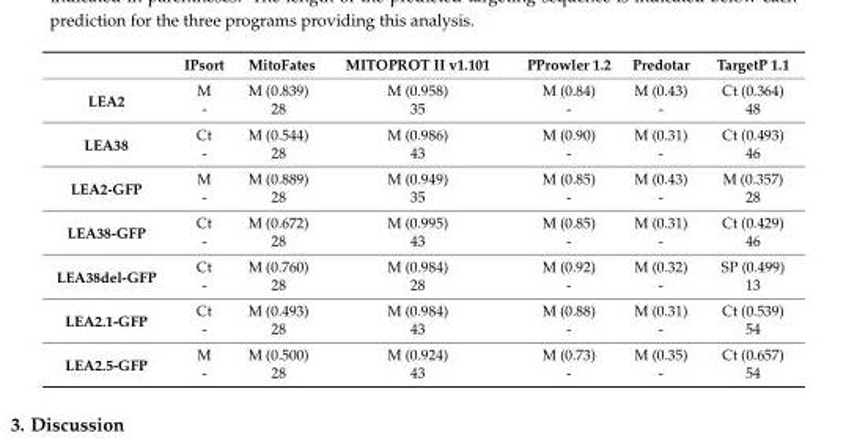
<table><thead><tr><td></td><td>IPsort</td><td>MitoFates</td><td>MITOPROT II v1.101</td><td>PProwler 1.2</td><td>Predotar</td><td>TargetP 1.1</td></tr></thead><tbody><tr><td rowspan="2">LEA2</td><td>M</td><td>M (0.839)</td><td>M (0.958)</td><td>M (0.84)</td><td>M (0.43)</td><td>Ct (0.364)</td></tr><tr><td>-</td><td>28</td><td>35</td><td>-</td><td>-</td><td>48</td></tr><tr><td rowspan="2">LEA38</td><td>Ct</td><td>M (0.544)</td><td>M (0.986)</td><td>M (0.90)</td><td>M (0.31)</td><td>Ct (0.493)</td></tr><tr><td>-</td><td>28</td><td>43</td><td>-</td><td>-</td><td>46</td></tr><tr><td rowspan="2">LEA2-GFP</td><td>M</td><td>M (0.889)</td><td>M (0.949)</td><td>M (0.85)</td><td>M (0.43)</td><td>M (0.357)</td></tr><tr><td>-</td><td>28</td><td>35</td><td>-</td><td>-</td><td>28</td></tr><tr><td rowspan="2">LEA38-GFP</td><td>Ct</td><td>M (0.672)</td><td>M (0.995)</td><td>M (0.85)</td><td>M (0.31)</td><td>Ct (0.429)</td></tr><tr><td>-</td><td>28</td><td>43</td><td>-</td><td>-</td><td>46</td></tr><tr><td rowspan="2">LEA38del-GFP</td><td>Ct</td><td>M (0.760)</td><td>M (0.984)</td><td>M (0.92)</td><td>M (0.32)</td><td>SP (0.499)</td></tr><tr><td>-</td><td>28</td><td>28</td><td>-</td><td>-</td><td>13</td></tr><tr><td rowspan="2">LEA2.1-GFP</td><td>Ct</td><td>M (0.493)</td><td>M (0.984)</td><td>M (0.88)</td><td>M (0.31)</td><td>Ct (0.539)</td></tr><tr><td>-</td><td>28</td><td>43</td><td>-</td><td>-</td><td>54</td></tr><tr><td rowspan="2">LEA2.5-GFP</td><td>M</td><td>M (0.500)</td><td>M (0.924)</td><td>M (0.73)</td><td>M (0.35)</td><td>Ct (0.657)</td></tr><tr><td>-</td><td>28</td><td>43</td><td>-</td><td>-</td><td>54</td></tr></tbody></table>